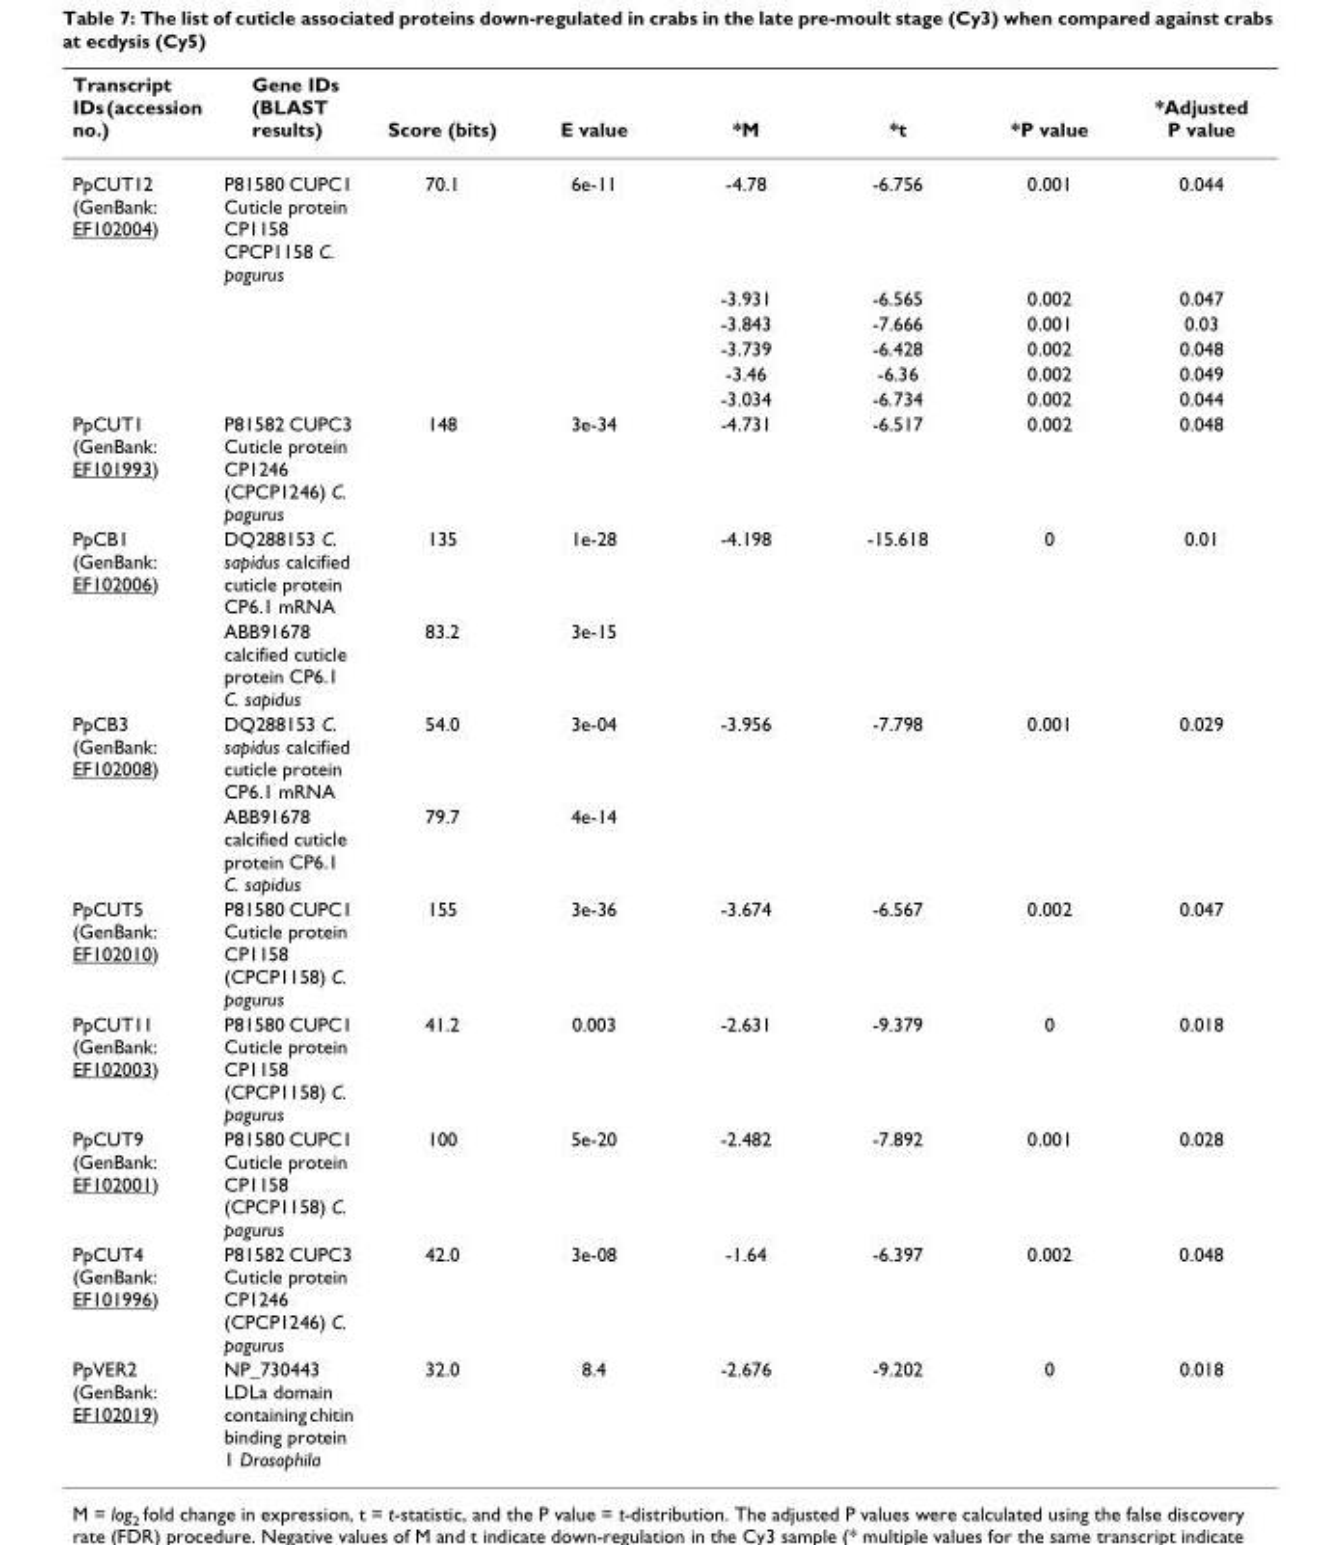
<table><thead><tr><td>Transcript IDs (accession no.)</td><td>Gene IDs (BLAST results)</td><td>Score (bits)</td><td>E value</td><td>*M</td><td>*t</td><td>*P value</td><td>*Adjusted P value</td></tr></thead><tbody><tr><td rowspan="6">PpCUT12 (GenBank: EF102004)</td><td>P81580 CUPC1 Cuticle protein CP1158 CPCP1158 C. pagurus</td><td>70.1</td><td>6e-11</td><td>-4.78</td><td>-6.756</td><td>0.001</td><td>0.044</td></tr><tr><td></td><td></td><td></td><td>-3.931</td><td>-6.565</td><td>0.002</td><td>0.047</td></tr><tr><td></td><td></td><td></td><td>-3.843</td><td>-7.666</td><td>0.001</td><td>0.03</td></tr><tr><td></td><td></td><td></td><td>-3.739</td><td>-6.428</td><td>0.002</td><td>0.048</td></tr><tr><td></td><td></td><td></td><td>-3.46</td><td>-6.36</td><td>0.002</td><td>0.049</td></tr><tr><td></td><td></td><td></td><td>-3.034</td><td>-6.734</td><td>0.002</td><td>0.044</td></tr><tr><td>PpCUT1 (GenBank: EF101993)</td><td>P81582 CUPC3 Cuticle protein CP1246 (CPCP1246) C. pagurus</td><td>148</td><td>3e-34</td><td>-4.731</td><td>-6.517</td><td>0.002</td><td>0.048</td></tr><tr><td rowspan="2">PpCB1 (GenBank: EF102006)</td><td>DQ288153 C. sapidus calcified cuticle protein CP6.1 mRNA</td><td>135</td><td>1e-28</td><td>-4.198</td><td>-15.618</td><td>0</td><td>0.01</td></tr><tr><td>ABB91678 calcified cuticle protein CP6.1 C. sapidus</td><td>83.2</td><td>3e-15</td><td></td><td></td><td></td><td></td></tr><tr><td rowspan="2">PpCB3 (GenBank: EF102008)</td><td>DQ288153 C. sapidus calcified cuticle protein CP6.1 mRNA</td><td>54.0</td><td>3e-04</td><td>-3.956</td><td>-7.798</td><td>0.001</td><td>0.029</td></tr><tr><td>ABB91678 calcified cuticle protein CP6.1 C. sapidus</td><td>79.7</td><td>4e-14</td><td></td><td></td><td></td><td></td></tr><tr><td>PpCUT5 (GenBank: EF102010)</td><td>P81580 CUPC1 Cuticle protein CP1158 (CPCP1158) C. pagurus</td><td>155</td><td>3e-36</td><td>-3.674</td><td>-6.567</td><td>0.002</td><td>0.047</td></tr><tr><td>PpCUT11 (GenBank: EF102003)</td><td>P81580 CUPC1 Cuticle protein CP1158 (CPCP1158) C. pagurus</td><td>41.2</td><td>0.003</td><td>-2.631</td><td>-9.379</td><td>0</td><td>0.018</td></tr><tr><td>PpCUT9 (GenBank: EF102001)</td><td>P81580 CUPC1 Cuticle protein CP1158 (CPCP1158) C. pagurus</td><td>100</td><td>5e-20</td><td>-2.482</td><td>-7.892</td><td>0.001</td><td>0.028</td></tr><tr><td>PpCUT4 (GenBank: EF101996)</td><td>P81582 CUPC3 Cuticle protein CP1246 (CPCP1246) C. pagurus</td><td>42.0</td><td>3e-08</td><td>-1.64</td><td>-6.397</td><td>0.002</td><td>0.048</td></tr><tr><td>PpVER2 (GenBank: EF102019)</td><td>NP_730443 LDLa domain containing chitin binding protein 1 Drosophila</td><td>32.0</td><td>8.4</td><td>-2.676</td><td>-9.202</td><td>0</td><td>0.018</td></tr></tbody></table>